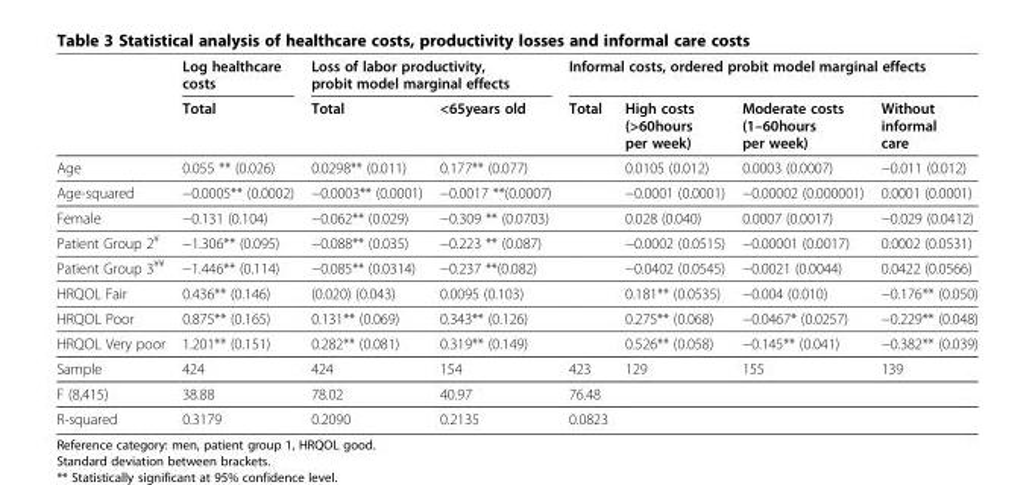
<table><thead><tr><td rowspan="2"></td><td rowspan="2">Log healthcare costs Total</td><td colspan="2">Loss of labor productivity, probit model marginal effects</td><td colspan="4">Informal costs, ordered probit model marginal effects</td></tr><tr><td>Total</td><td>&lt;65years old</td><td>Total</td><td>High costs (&gt;60hours per week)</td><td>Moderate costs (1–60hours per week)</td><td>Without informal care</td></tr></thead><tbody><tr><td>Age</td><td>0.055 ** (0.026)</td><td>0.0298** (0.011)</td><td>0.177** (0.077)</td><td></td><td>0.0105 (0.012)</td><td>0.0003 (0.0007)</td><td>−0.011 (0.012)</td></tr><tr><td>Age-squared</td><td>−0.0005** (0.0002)</td><td>−0.0003** (0.0001)</td><td>−0.0017 **(0.0007)</td><td></td><td>−0.0001 (0.0001)</td><td>−0.00002 (0.000001)</td><td>0.0001 (0.0001)</td></tr><tr><td>Female</td><td>−0.131 (0.104)</td><td>−0.062** (0.029)</td><td>−0.309 ** (0.0703)</td><td></td><td>0.028 (0.040)</td><td>0.0007 (0.0017)</td><td>−0.029 (0.0412)</td></tr><tr><td>Patient Group 2<sup>¥</sup></td><td>−1.306** (0.095)</td><td>−0.088** (0.035)</td><td>−0.223 ** (0.087)</td><td></td><td>−0.0002 (0.0515)</td><td>−0.00001 (0.0017)</td><td>0.0002 (0.0531)</td></tr><tr><td>Patient Group 3<sup>¥¥</sup></td><td>−1.446** (0.114)</td><td>−0.085** (0.0314)</td><td>−0.237 **(0.082)</td><td></td><td>−0.0402 (0.0545)</td><td>−0.0021 (0.0044)</td><td>0.0422 (0.0566)</td></tr><tr><td>HRQOL Fair</td><td>0.436** (0.146)</td><td>(0.020) (0.043)</td><td>0.0095 (0.103)</td><td></td><td>0.181** (0.0535)</td><td>−0.004 (0.010)</td><td>−0.176** (0.050)</td></tr><tr><td>HRQOL Poor</td><td>0.875** (0.165)</td><td>0.131** (0.069)</td><td>0.343** (0.126)</td><td></td><td>0.275** (0.068)</td><td>−0.0467* (0.0257)</td><td>−0.229** (0.048)</td></tr><tr><td>HRQOL Very poor</td><td>1.201** (0.151)</td><td>0.282** (0.081)</td><td>0.319** (0.149)</td><td></td><td>0.526** (0.058)</td><td>−0.145** (0.041)</td><td>−0.382** (0.039)</td></tr><tr><td>Sample</td><td>424</td><td>424</td><td>154</td><td>423</td><td>129</td><td>155</td><td>139</td></tr><tr><td>F (8,415)</td><td>38.88</td><td>78.02</td><td>40.97</td><td>76.48</td><td colspan="3"></td></tr><tr><td>R-squared</td><td>0.3179</td><td>0.2090</td><td>0.2135</td><td>0.0823</td><td colspan="3"></td></tr></tbody></table>